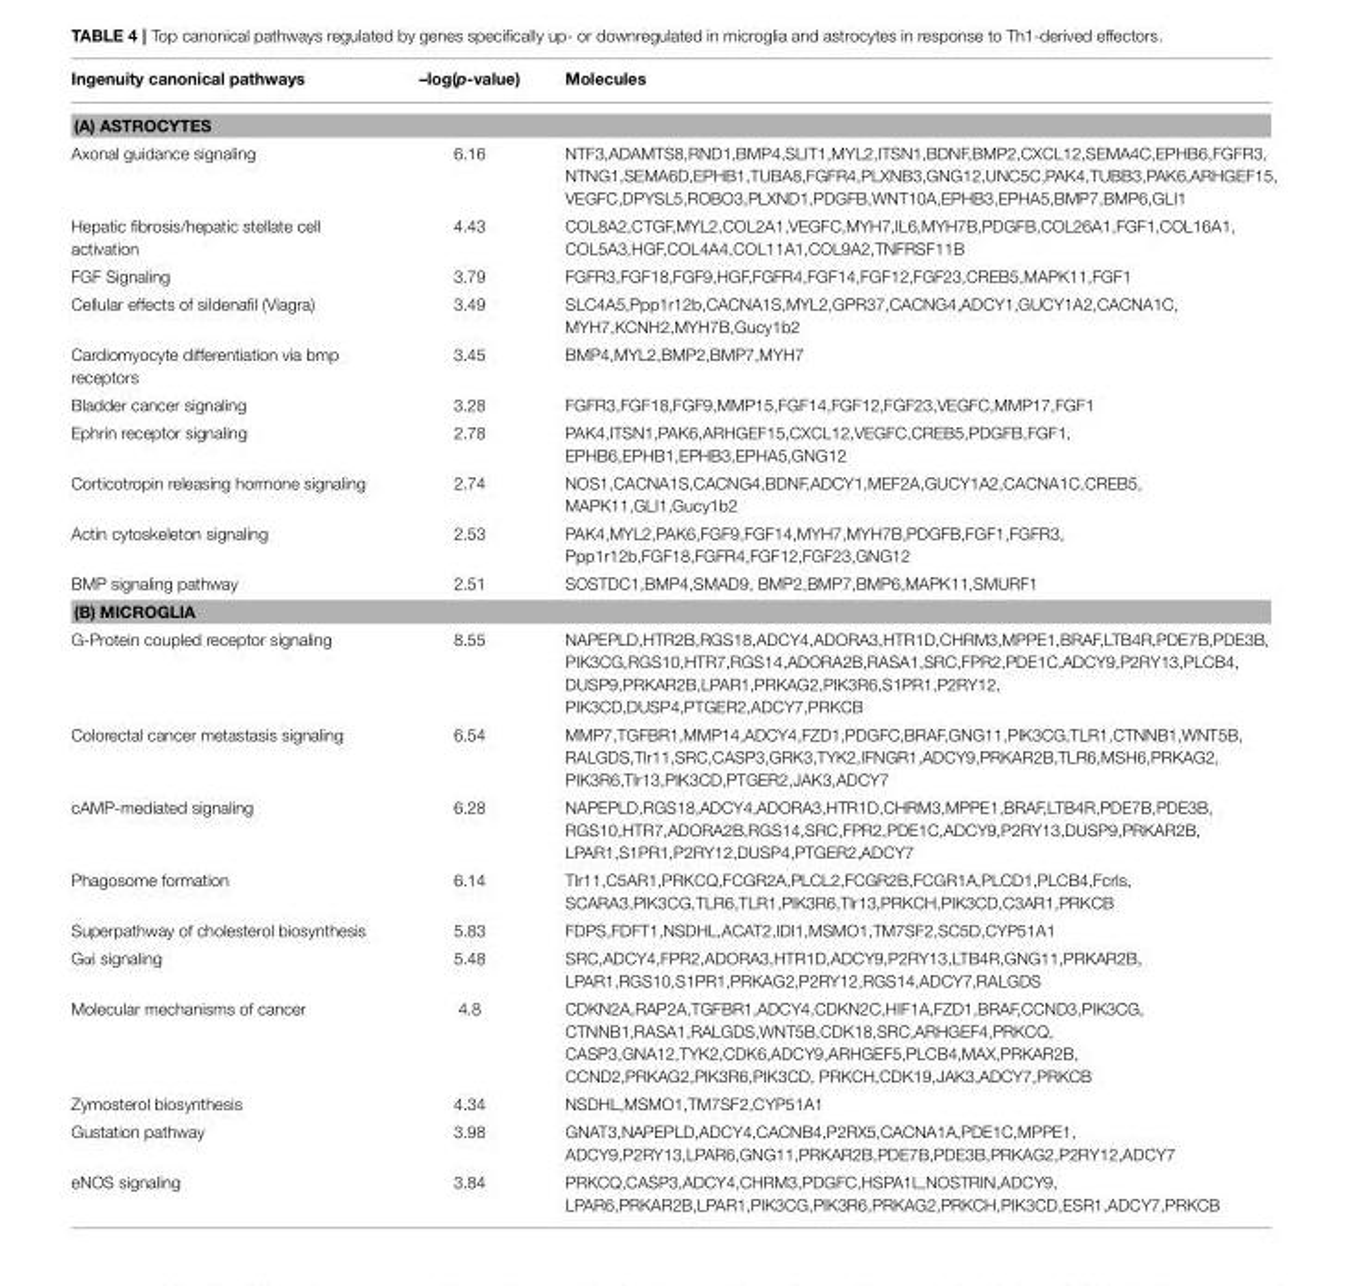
<table><thead><tr><td>Ingenuity canonical pathways</td><td>–log(p-value)</td><td>Molecules</td></tr></thead><tbody><tr><td colspan="3">(A) ASTROCYTES</td></tr><tr><td>Axonal guidance signaling</td><td>6.16</td><td>NTF3,ADAMTS8,RND1,BMP4,SLIT1,MYL2,ITSN1,BDNF,BMP2,CXCL12,SEMA4C,EPHB6,FGFR3, NTNG1,SEMA6D,EPHB1,TUBA8,FGFR4,PLXNB3,GNG12,UNC5C,PAK4,TUBB3,PAK6,ARHGEF15, VEGFC,DPYSL5,ROBO3,PLXND1,PDGFB,WNT10A,EPHB3,EPHA5,BMP7,BMP6,GLI1</td></tr><tr><td>Hepatic fibrosis/hepatic stellate cell activation</td><td>4.43</td><td>COL8A2,CTGF,MYL2,COL2A1,VEGFC,MYH7,IL6,MYH7B,PDGFB,COL26A1,FGF1,COL16A1, COL5A3,HGF,COL4A4,COL11A1,COL9A2,TNFRSF11B</td></tr><tr><td>FGF Signaling</td><td>3.79</td><td>FGFR3,FGF18,FGF9,HGF,FGFR4,FGF14,FGF12,FGF23,CREB5,MAPK11,FGF1</td></tr><tr><td>Cellular effects of sildenafil (Viagra)</td><td>3.49</td><td>SLC4A5,Ppp1r12b,CACNA1S,MYL2,GPR37,CACNG4,ADCY1,GUCY1A2,CACNA1C, MYH7,KCNH2,MYH7B,Gucy1b2</td></tr><tr><td>Cardiomyocyte differentiation via bmp receptors</td><td>3.45</td><td>BMP4,MYL2,BMP2,BMP7,MYH7</td></tr><tr><td>Bladder cancer signaling</td><td>3.28</td><td>FGFR3,FGF18,FGF9,MMP15,FGF14,FGF12,FGF23,VEGFC,MMP17,FGF1</td></tr><tr><td>Ephrin receptor signaling</td><td>2.78</td><td>PAK4,ITSN1,PAK6,ARHGEF15,CXCL12,VEGFC,CREB5,PDGFB,FGF1, EPHB6,EPHB1,EPHB3,EPHA5,GNG12</td></tr><tr><td>Corticotropin releasing hormone signaling</td><td>2.74</td><td>NOS1,CACNA1S,CACNG4,BDNF,ADCY1,MEF2A,GUCY1A2,CACNA1C,CREB5, MAPK11,GLI1,Gucy1b2</td></tr><tr><td>Actin cytoskeleton signaling</td><td>2.53</td><td>PAK4,MYL2,PAK6,FGF9,FGF14,MYH7,MYH7B,PDGFB,FGF1,FGFR3, Ppp1r12b,FGF18,FGFR4,FGF12,FGF23,GNG12</td></tr><tr><td>BMP signaling pathway</td><td>2.51</td><td>SOSTDC1,BMP4,SMAD9, BMP2,BMP7,BMP6,MAPK11,SMURF1</td></tr><tr><td colspan="3">(B) MICROGLIA</td></tr><tr><td>G-Protein coupled receptor signaling</td><td>8.55</td><td>NAPEPLD,HTR2B,RGS18,ADCY4,ADORA3,HTR1D,CHRM3,MPPE1,BRAF,LTB4R,PDE7B,PDE3B, PIK3CG,RGS10,HTR7,RGS14,ADORA2B,RASA1,SRC,FPR2,PDE1C,ADCY9,P2RY13,PLCB4, DUSP9,PRKAR2B,LPAR1,PRKAG2,PIK3R6,S1PR1,P2RY12, PIK3CD,DUSP4,PTGER2,ADCY7,PRKCB</td></tr><tr><td>Colorectal cancer metastasis signaling</td><td>6.54</td><td>MMP7,TGFBR1,MMP14,ADCY4,FZD1,PDGFC,BRAF,GNG11,PIK3CG,TLR1,CTNNB1,WNT5B, RALGDS,Tlr11,SRC,CASP3,GRK3,TYK2,IFNGR1,ADCY9,PRKAR2B,TLR6,MSH6,PRKAG2, PIK3R6,Tlr13,PIK3CD,PTGER2,JAK3,ADCY7</td></tr><tr><td>cAMP-mediated signaling</td><td>6.28</td><td>NAPEPLD,RGS18,ADCY4,ADORA3,HTR1D,CHRM3,MPPE1,BRAF,LTB4R,PDE7B,PDE3B, RGS10,HTR7,ADORA2B,RGS14,SRC,FPR2,PDE1C,ADCY9,P2RY13,DUSP9,PRKAR2B, LPAR1,S1PR1,P2RY12,DUSP4,PTGER2,ADCY7</td></tr><tr><td>Phagosome formation</td><td>6.14</td><td>Tlr11,C5AR1,PRKCQ,FCGR2A,PLCL2,FCGR2B,FCGR1A,PLCD1,PLCB4,Fcrls, SCARA3,PIK3CG,TLR6,TLR1,PIK3R6,Tlr13,PRKCH,PIK3CD,C3AR1,PRKCB</td></tr><tr><td>Superpathway of cholesterol biosynthesis</td><td>5.83</td><td>FDPS,FDFT1,NSDHL,ACAT2,IDI1,MSMO1,TM7SF2,SC5D,CYP51A1</td></tr><tr><td>Gαi signaling</td><td>5.48</td><td>SRC,ADCY4,FPR2,ADORA3,HTR1D,ADCY9,P2RY13,LTB4R,GNG11,PRKAR2B, LPAR1,RGS10,S1PR1,PRKAG2,P2RY12,RGS14,ADCY7,RALGDS</td></tr><tr><td>Molecular mechanisms of cancer</td><td>4.8</td><td>CDKN2A,RAP2A,TGFBR1,ADCY4,CDKN2C,HIF1A,FZD1,BRAF,CCND3,PIK3CG, CTNNB1,RASA1,RALGDS,WNT5B,CDK18,SRC,ARHGEF4,PRKCQ, CASP3,GNA12,TYK2,CDK6,ADCY9,ARHGEF5,PLCB4,MAX,PRKAR2B, CCND2,PRKAG2,PIK3R6,PIK3CD, PRKCH,CDK19,JAK3,ADCY7,PRKCB</td></tr><tr><td>Zymosterol biosynthesis</td><td>4.34</td><td>NSDHL,MSMO1,TM7SF2,CYP51A1</td></tr><tr><td>Gustation pathway</td><td>3.98</td><td>GNAT3,NAPEPLD,ADCY4,CACNB4,P2RX5,CACNA1A,PDE1C,MPPE1, ADCY9,P2RY13,LPAR6,GNG11,PRKAR2B,PDE7B,PDE3B,PRKAG2,P2RY12,ADCY7</td></tr><tr><td>eNOS signaling</td><td>3.84</td><td>PRKCQ,CASP3,ADCY4,CHRM3,PDGFC,HSPA1L,NOSTRIN,ADCY9, LPAR6,PRKAR2B,LPAR1,PIK3CG,PIK3R6,PRKAG2,PRKCH,PIK3CD,ESR1,ADCY7,PRKCB</td></tr></tbody></table>